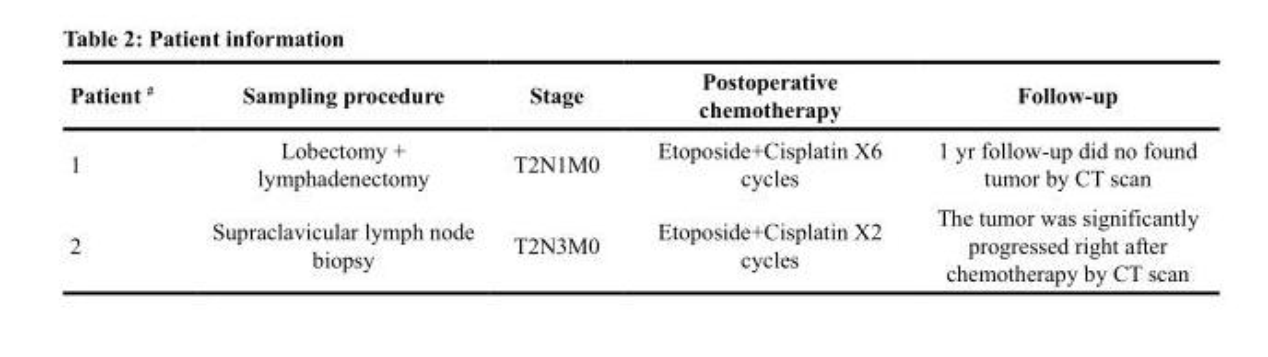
<table><thead><tr><td>Patient <sup>#</sup></td><td>Sampling procedure</td><td>Stage</td><td>Postoperative chemotherapy</td><td>Follow-up</td></tr></thead><tbody><tr><td>1</td><td>Lobectomy + lymphadenectomy</td><td>T2N1M0</td><td>Etoposide+Cisplatin X6 cycles</td><td>1 yr follow-up did no found tumor by CT scan</td></tr><tr><td>2</td><td>Supraclavicular lymph node biopsy</td><td>T2N3M0</td><td>Etoposide+Cisplatin X2 cycles</td><td>The tumor was significantly progressed right after chemotherapy by CT scan</td></tr></tbody></table>